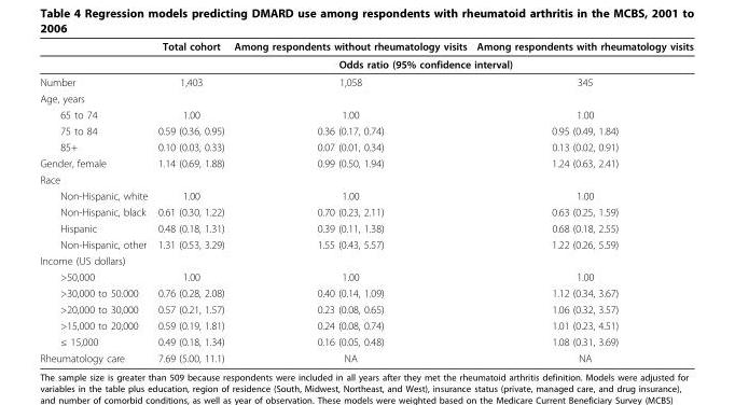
<table><thead><tr><td></td><td>Total cohort</td><td>Among respondents without rheumatology visits</td><td>Among respondents with rheumatology visits</td></tr></thead><tbody><tr><td></td><td colspan="3">Odds ratio (95% confidence interval)</td></tr><tr><td>Number</td><td>1,403</td><td>1,058</td><td>345</td></tr><tr><td colspan="4">Age, years</td></tr><tr><td>65 to 74</td><td>1.00</td><td>1.00</td><td>1.00</td></tr><tr><td>75 to 84</td><td>0.59 (0.36, 0.95)</td><td>0.36 (0.17, 0.74)</td><td>0.95 (0.49, 1.84)</td></tr><tr><td>85+</td><td>0.10 (0.03, 0.33)</td><td>0.07 (0.01, 0.34)</td><td>0.13 (0.02, 0.91)</td></tr><tr><td>Gender, female</td><td>1.14 (0.69, 1.88)</td><td>0.99 (0.50, 1.94)</td><td>1.24 (0.63, 2.41)</td></tr><tr><td colspan="4">Race</td></tr><tr><td>Non-Hispanic, white</td><td>1.00</td><td>1.00</td><td>1.00</td></tr><tr><td>Non-Hispanic, black</td><td>0.61 (0.30, 1.22)</td><td>0.70 (0.23, 2.11)</td><td>0.63 (0.25, 1.59)</td></tr><tr><td>Hispanic</td><td>0.48 (0.18, 1.31)</td><td>0.39 (0.11, 1.38)</td><td>0.68 (0.18, 2.55)</td></tr><tr><td>Non-Hispanic, other</td><td>1.31 (0.53, 3.29)</td><td>1.55 (0.43, 5.57)</td><td>1.22 (0.26, 5.59)</td></tr><tr><td colspan="4">Income (US dollars)</td></tr><tr><td>&gt;50,000</td><td>1.00</td><td>1.00</td><td>1.00</td></tr><tr><td>&gt;30,000 to 50.000</td><td>0.76 (0.28, 2.08)</td><td>0.40 (0.14, 1.09)</td><td>1.12 (0.34, 3.67)</td></tr><tr><td>&gt;20,000 to 30,000</td><td>0.57 (0.21, 1.57)</td><td>0.23 (0.08, 0.65)</td><td>1.06 (0.32, 3.57)</td></tr><tr><td>&gt;15,000 to 20,000</td><td>0.59 (0.19, 1.81)</td><td>0.24 (0.08, 0.74)</td><td>1.01 (0.23, 4.51)</td></tr><tr><td>≤ 15,000</td><td>0.49 (0.18, 1.34)</td><td>0.16 (0.05, 0.48)</td><td>1.08 (0.31, 3.69)</td></tr><tr><td>Rheumatology care</td><td>7.69 (5.00, 11.1)</td><td>NA</td><td>NA</td></tr></tbody></table>